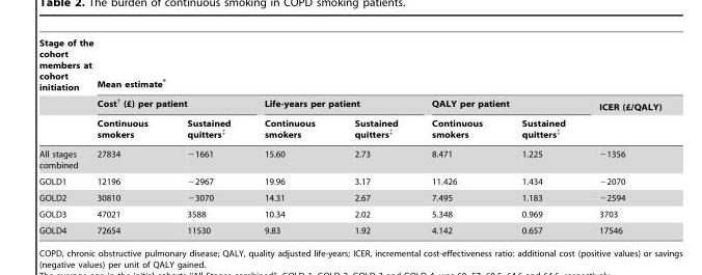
<table><thead><tr><td rowspan="3">Stage of the cohort members at cohort initiation</td><td colspan="7">Mean estimate*</td></tr><tr><td colspan="2">Cost† (£) per patient</td><td colspan="2">Life-years per patient</td><td colspan="2">QALY per patient</td><td rowspan="2">ICER (£/QALY)</td></tr><tr><td>Continuous smokers</td><td>Sustained quitters‡</td><td>Continuous smokers</td><td>Sustained quitters‡</td><td>Continuous smokers</td><td>Sustained quitters‡</td></tr></thead><tbody><tr><td>All stages combined</td><td>27834</td><td>−1661</td><td>15.60</td><td>2.73</td><td>8.471</td><td>1.225</td><td>−1356</td></tr><tr><td>GOLD1</td><td>12196</td><td>−2967</td><td>19.96</td><td>3.17</td><td>11.426</td><td>1.434</td><td>−2070</td></tr><tr><td>GOLD2</td><td>30810</td><td>−3070</td><td>14.31</td><td>2.67</td><td>7.495</td><td>1.183</td><td>−2594</td></tr><tr><td>GOLD3</td><td>47021</td><td>3588</td><td>10.34</td><td>2.02</td><td>5.348</td><td>0.969</td><td>3703</td></tr><tr><td>GOLD4</td><td>72654</td><td>11530</td><td>9.83</td><td>1.92</td><td>4.142</td><td>0.657</td><td>17546</td></tr></tbody></table>